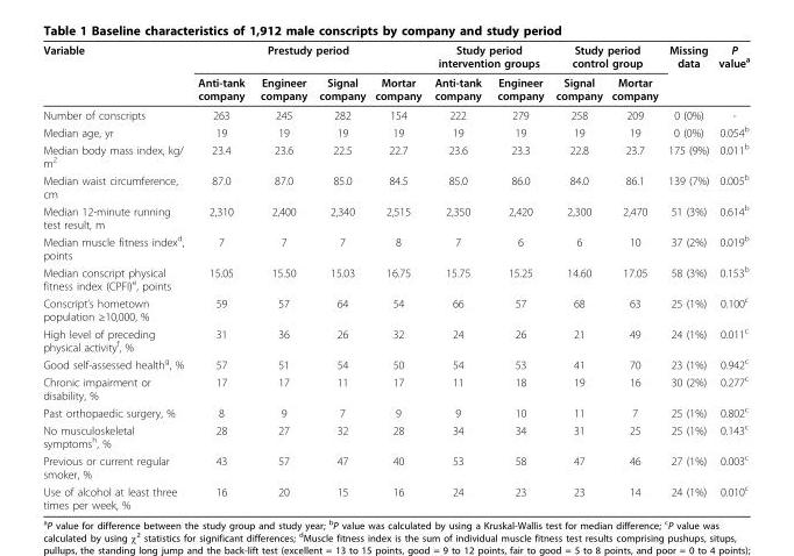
<table><thead><tr><td rowspan="2">Variable</td><td colspan="4">Prestudy period</td><td colspan="2">Study period intervention groups</td><td colspan="2">Study period control group</td><td rowspan="2">Missing data</td><td rowspan="2">P value<sup>a</sup></td></tr><tr><td>Anti-tank company</td><td>Engineer company</td><td>Signal company</td><td>Mortar company</td><td>Anti-tank company</td><td>Engineer company</td><td>Signal company</td><td>Mortar company</td></tr></thead><tbody><tr><td>Number of conscripts</td><td>263</td><td>245</td><td>282</td><td>154</td><td>222</td><td>279</td><td>258</td><td>209</td><td>0 (0%)</td><td>-</td></tr><tr><td>Median age, yr</td><td>19</td><td>19</td><td>19</td><td>19</td><td>19</td><td>19</td><td>19</td><td>19</td><td>0 (0%)</td><td>0.054<sup>b</sup></td></tr><tr><td>Median body mass index, kg/ m<sup>2</sup></td><td>23.4</td><td>23.6</td><td>22.5</td><td>22.7</td><td>23.6</td><td>23.3</td><td>22.8</td><td>23.7</td><td>175 (9%)</td><td>0.011<sup>b</sup></td></tr><tr><td>Median waist circumference, cm</td><td>87.0</td><td>87.0</td><td>85.0</td><td>84.5</td><td>85.0</td><td>86.0</td><td>84.0</td><td>86.1</td><td>139 (7%)</td><td>0.005<sup>b</sup></td></tr><tr><td>Median 12-minute running test result, m</td><td>2,310</td><td>2,400</td><td>2,340</td><td>2,515</td><td>2,350</td><td>2,420</td><td>2,300</td><td>2,470</td><td>51 (3%)</td><td>0.614<sup>b</sup></td></tr><tr><td>Median muscle fitness index<sup>d</sup>, points</td><td>7</td><td>7</td><td>7</td><td>8</td><td>7</td><td>6</td><td>6</td><td>10</td><td>37 (2%)</td><td>0.019<sup>b</sup></td></tr><tr><td>Median conscript physical fitness index (CPFI)<sup>e</sup>, points</td><td>15.05</td><td>15.50</td><td>15.03</td><td>16.75</td><td>15.75</td><td>15.25</td><td>14.60</td><td>17.05</td><td>58 (3%)</td><td>0.153<sup>b</sup></td></tr><tr><td>Conscript’s hometown population ≥10,000, %</td><td>59</td><td>57</td><td>64</td><td>54</td><td>66</td><td>57</td><td>68</td><td>63</td><td>25 (1%)</td><td>0.100<sup>c</sup></td></tr><tr><td>High level of preceding physical activity<sup>f</sup>, %</td><td>31</td><td>36</td><td>26</td><td>32</td><td>24</td><td>26</td><td>21</td><td>49</td><td>24 (1%)</td><td>0.011<sup>c</sup></td></tr><tr><td>Good self-assessed health<sup>g</sup>, %</td><td>57</td><td>51</td><td>54</td><td>50</td><td>54</td><td>53</td><td>41</td><td>70</td><td>23 (1%)</td><td>0.942<sup>c</sup></td></tr><tr><td>Chronic impairment or disability, %</td><td>17</td><td>17</td><td>11</td><td>17</td><td>11</td><td>18</td><td>19</td><td>16</td><td>30 (2%)</td><td>0.277<sup>c</sup></td></tr><tr><td>Past orthopaedic surgery, %</td><td>8</td><td>9</td><td>7</td><td>9</td><td>9</td><td>10</td><td>11</td><td>7</td><td>25 (1%)</td><td>0.802<sup>c</sup></td></tr><tr><td>No musculoskeletal symptoms<sup>h</sup>, %</td><td>28</td><td>27</td><td>32</td><td>28</td><td>34</td><td>34</td><td>31</td><td>25</td><td>25 (1%)</td><td>0.143<sup>c</sup></td></tr><tr><td>Previous or current regular smoker, %</td><td>43</td><td>57</td><td>47</td><td>40</td><td>53</td><td>58</td><td>47</td><td>46</td><td>27 (1%)</td><td>0.003<sup>c</sup></td></tr><tr><td>Use of alcohol at least three times per week, %</td><td>16</td><td>20</td><td>15</td><td>16</td><td>24</td><td>23</td><td>23</td><td>14</td><td>24 (1%)</td><td>0.010<sup>c</sup></td></tr></tbody></table>